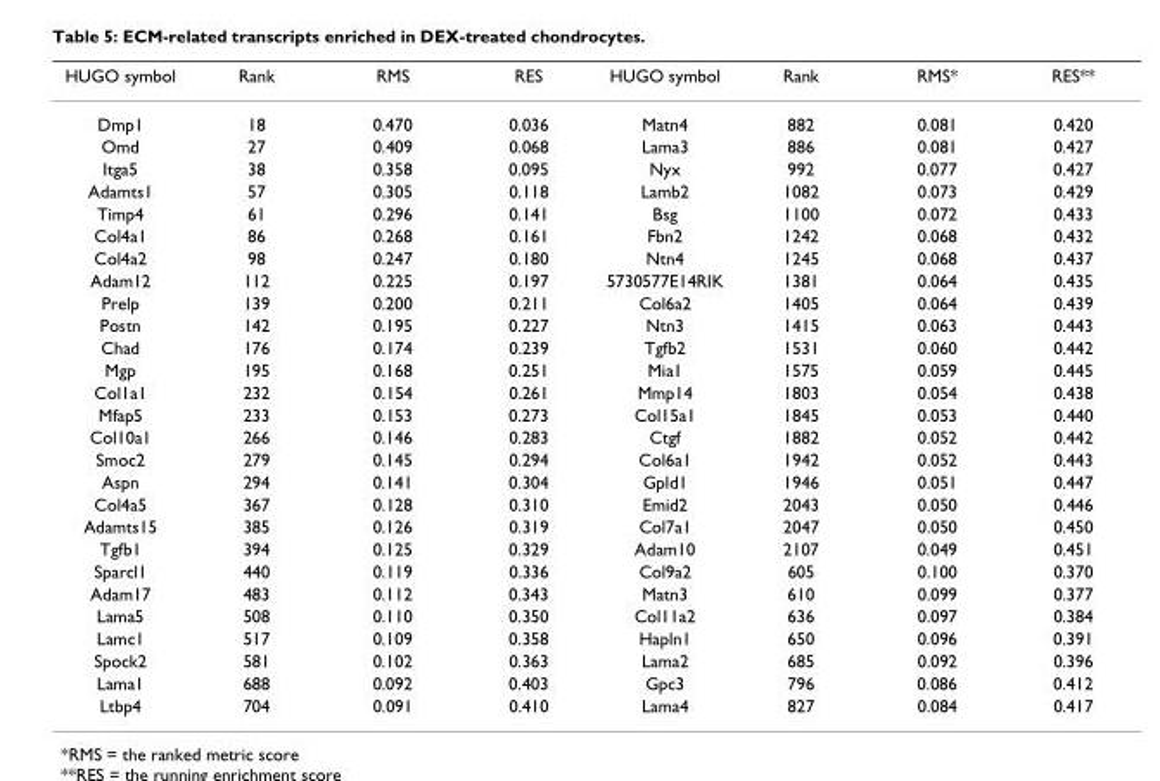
<table><thead><tr><td>HUGO symbol</td><td>Rank</td><td>RMS</td><td>RES</td><td>HUGO symbol</td><td>Rank</td><td>RMS*</td><td>RES**</td></tr></thead><tbody><tr><td>Dmp1</td><td>18</td><td>0.470</td><td>0.036</td><td>Matn4</td><td>882</td><td>0.081</td><td>0.420</td></tr><tr><td>Omd</td><td>27</td><td>0.409</td><td>0.068</td><td>Lama3</td><td>886</td><td>0.081</td><td>0.427</td></tr><tr><td>Itga5</td><td>38</td><td>0.358</td><td>0.095</td><td>Nyx</td><td>992</td><td>0.077</td><td>0.427</td></tr><tr><td>Adamts1</td><td>57</td><td>0.305</td><td>0.118</td><td>Lamb2</td><td>1082</td><td>0.073</td><td>0.429</td></tr><tr><td>Timp4</td><td>61</td><td>0.296</td><td>0.141</td><td>Bsg</td><td>1100</td><td>0.072</td><td>0.433</td></tr><tr><td>Col4a1</td><td>86</td><td>0.268</td><td>0.161</td><td>Fbn2</td><td>1242</td><td>0.068</td><td>0.432</td></tr><tr><td>Col4a2</td><td>98</td><td>0.247</td><td>0.180</td><td>Ntn4</td><td>1245</td><td>0.068</td><td>0.437</td></tr><tr><td>Adam12</td><td>112</td><td>0.225</td><td>0.197</td><td>5730577E14RIK</td><td>1381</td><td>0.064</td><td>0.435</td></tr><tr><td>Prelp</td><td>139</td><td>0.200</td><td>0.211</td><td>Col6a2</td><td>1405</td><td>0.064</td><td>0.439</td></tr><tr><td>Postn</td><td>142</td><td>0.195</td><td>0.227</td><td>Ntn3</td><td>1415</td><td>0.063</td><td>0.443</td></tr><tr><td>Chad</td><td>176</td><td>0.174</td><td>0.239</td><td>Tgfb2</td><td>1531</td><td>0.060</td><td>0.442</td></tr><tr><td>Mgp</td><td>195</td><td>0.168</td><td>0.251</td><td>Mia1</td><td>1575</td><td>0.059</td><td>0.445</td></tr><tr><td>Col1a1</td><td>232</td><td>0.154</td><td>0.261</td><td>Mmp14</td><td>1803</td><td>0.054</td><td>0.438</td></tr><tr><td>Mfap5</td><td>233</td><td>0.153</td><td>0.273</td><td>Col15a1</td><td>1845</td><td>0.053</td><td>0.440</td></tr><tr><td>Col10a1</td><td>266</td><td>0.146</td><td>0.283</td><td>Ctgf</td><td>1882</td><td>0.052</td><td>0.442</td></tr><tr><td>Smoc2</td><td>279</td><td>0.145</td><td>0.294</td><td>Col6a1</td><td>1942</td><td>0.052</td><td>0.443</td></tr><tr><td>Aspn</td><td>294</td><td>0.141</td><td>0.304</td><td>Gpld1</td><td>1946</td><td>0.051</td><td>0.447</td></tr><tr><td>Col4a5</td><td>367</td><td>0.128</td><td>0.310</td><td>Emid2</td><td>2043</td><td>0.050</td><td>0.446</td></tr><tr><td>Adamts15</td><td>385</td><td>0.126</td><td>0.319</td><td>Col7a1</td><td>2047</td><td>0.050</td><td>0.450</td></tr><tr><td>Tgfb1</td><td>394</td><td>0.125</td><td>0.329</td><td>Adam10</td><td>2107</td><td>0.049</td><td>0.451</td></tr><tr><td>Sparcl1</td><td>440</td><td>0.119</td><td>0.336</td><td>Col9a2</td><td>605</td><td>0.100</td><td>0.370</td></tr><tr><td>Adam17</td><td>483</td><td>0.112</td><td>0.343</td><td>Matn3</td><td>610</td><td>0.099</td><td>0.377</td></tr><tr><td>Lama5</td><td>508</td><td>0.110</td><td>0.350</td><td>Col11a2</td><td>636</td><td>0.097</td><td>0.384</td></tr><tr><td>Lamc1</td><td>517</td><td>0.109</td><td>0.358</td><td>Hapln1</td><td>650</td><td>0.096</td><td>0.391</td></tr><tr><td>Spock2</td><td>581</td><td>0.102</td><td>0.363</td><td>Lama2</td><td>685</td><td>0.092</td><td>0.396</td></tr><tr><td>Lama1</td><td>688</td><td>0.092</td><td>0.403</td><td>Gpc3</td><td>796</td><td>0.086</td><td>0.412</td></tr><tr><td>Ltbp4</td><td>704</td><td>0.091</td><td>0.410</td><td>Lama4</td><td>827</td><td>0.084</td><td>0.417</td></tr></tbody></table>